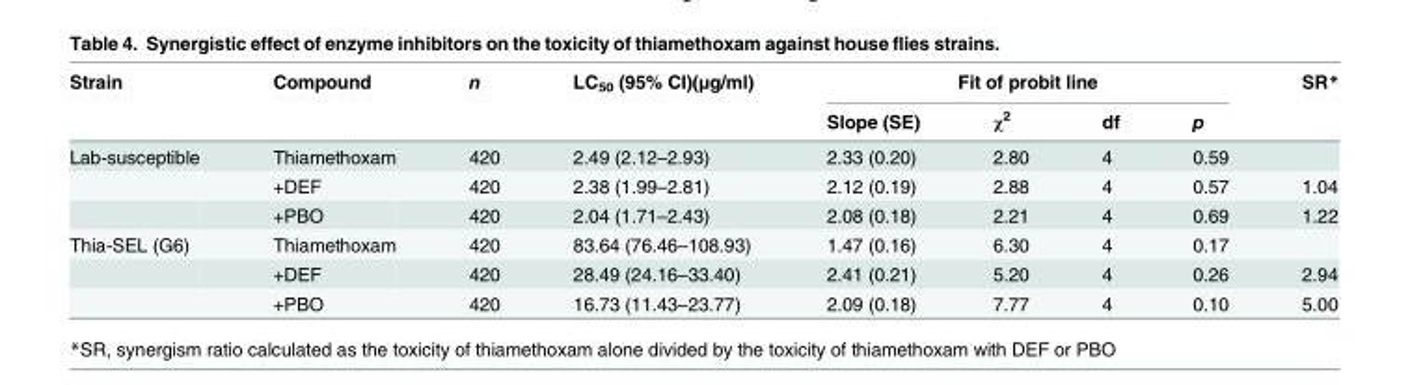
<table><thead><tr><td rowspan="2">Strain</td><td rowspan="2">Compound</td><td rowspan="2">n</td><td rowspan="2">LC<sub>50</sub> (95% CI)(μg/ml)</td><td colspan="4">Fit of probit line</td><td rowspan="2">SR*</td></tr><tr><td>Slope (SE)</td><td>χ<sup>2</sup></td><td>df</td><td>p</td></tr></thead><tbody><tr><td rowspan="3">Lab-susceptible</td><td>Thiamethoxam</td><td>420</td><td>2.49 (2.12–2.93)</td><td>2.33 (0.20)</td><td>2.80</td><td>4</td><td>0.59</td><td></td></tr><tr><td>+DEF</td><td>420</td><td>2.38 (1.99–2.81)</td><td>2.12 (0.19)</td><td>2.88</td><td>4</td><td>0.57</td><td>1.04</td></tr><tr><td>+PBO</td><td>420</td><td>2.04 (1.71–2.43)</td><td>2.08 (0.18)</td><td>2.21</td><td>4</td><td>0.69</td><td>1.22</td></tr><tr><td rowspan="3">Thia-SEL (G6)</td><td>Thiamethoxam</td><td>420</td><td>83.64 (76.46–108.93)</td><td>1.47 (0.16)</td><td>6.30</td><td>4</td><td>0.17</td><td></td></tr><tr><td>+DEF</td><td>420</td><td>28.49 (24.16–33.40)</td><td>2.41 (0.21)</td><td>5.20</td><td>4</td><td>0.26</td><td>2.94</td></tr><tr><td>+PBO</td><td>420</td><td>16.73 (11.43–23.77)</td><td>2.09 (0.18)</td><td>7.77</td><td>4</td><td>0.10</td><td>5.00</td></tr></tbody></table>